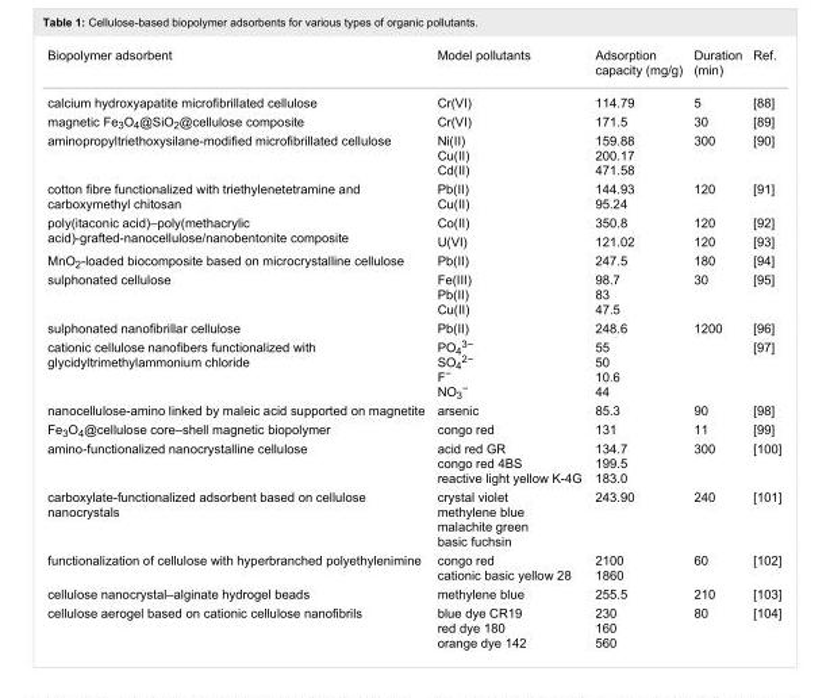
<table><tbody><tr><td>Biopolymer adsorbent</td><td>Model pollutants</td><td>Adsorption capacity (mg/g)</td><td>Duration (min)</td><td>Ref.</td></tr><tr><td>calcium hydroxyapatite microfibrillated cellulose</td><td>Cr(VI)</td><td>114.79</td><td>5</td><td>[88]</td></tr><tr><td>magnetic Fe<sub>3</sub>O<sub>4</sub>@SiO<sub>2</sub>@cellulose composite</td><td>Cr(VI)</td><td>171.5</td><td>30</td><td>[89]</td></tr><tr><td>aminopropyltriethoxysilane-modified microfibrillated cellulose</td><td>Ni(II) Cu(II) Cd(II)</td><td>159.88 200.17 471.58</td><td>300</td><td>[90]</td></tr><tr><td>cotton fibre functionalized with triethylenetetramine and carboxymethyl chitosan</td><td>Pb(II) Cu(II)</td><td>144.93 95.24</td><td>120</td><td>[91]</td></tr><tr><td rowspan="2">poly(itaconic acid)–poly(methacrylic acid)-grafted-nanocellulose/nanobentonite composite</td><td>Co(II)</td><td>350.8</td><td>120</td><td>[92]</td></tr><tr><td>U(VI)</td><td>121.02</td><td>120</td><td>[93]</td></tr><tr><td>MnO<sub>2</sub>-loaded biocomposite based on microcrystalline cellulose</td><td>Pb(II)</td><td>247.5</td><td>180</td><td>[94]</td></tr><tr><td>sulphonated cellulose</td><td>Fe(III) Pb(II) Cu(II)</td><td>98.7 83 47.5</td><td>30</td><td>[95]</td></tr><tr><td>sulphonated nanofibrillar cellulose</td><td>Pb(II)</td><td>248.6</td><td>1200</td><td>[96]</td></tr><tr><td>cationic cellulose nanofibers functionalized with glycidyltrimethylammonium chloride</td><td>PO<sub>4</sub><sup>3−</sup> SO<sub>4</sub><sup>2−</sup> F<sup>−</sup> NO<sub>3</sub><sup>−</sup></td><td>55 50 10.6 44</td><td></td><td>[97]</td></tr><tr><td>nanocellulose-amino linked by maleic acid supported on magnetite</td><td>arsenic</td><td>85.3</td><td>90</td><td>[98]</td></tr><tr><td>Fe<sub>3</sub>O<sub>4</sub>@cellulose core–shell magnetic biopolymer</td><td>congo red</td><td>131</td><td>11</td><td>[99]</td></tr><tr><td>amino-functionalized nanocrystalline cellulose</td><td>acid red GR congo red 4BS reactive light yellow K-4G</td><td>134.7 199.5 183.0</td><td>300</td><td>[100]</td></tr><tr><td>carboxylate-functionalized adsorbent based on cellulose nanocrystals</td><td>crystal violet methylene blue malachite green basic fuchsin</td><td>243.90</td><td>240</td><td>[101]</td></tr><tr><td>functionalization of cellulose with hyperbranched polyethylenimine</td><td>congo red cationic basic yellow 28</td><td>2100 1860</td><td>60</td><td>[102]</td></tr><tr><td>cellulose nanocrystal–alginate hydrogel beads</td><td>methylene blue</td><td>255.5</td><td>210</td><td>[103]</td></tr><tr><td>cellulose aerogel based on cationic cellulose nanofibrils</td><td>blue dye CR19 red dye 180 orange dye 142</td><td>230 160 560</td><td>80</td><td>[104]</td></tr></tbody></table>